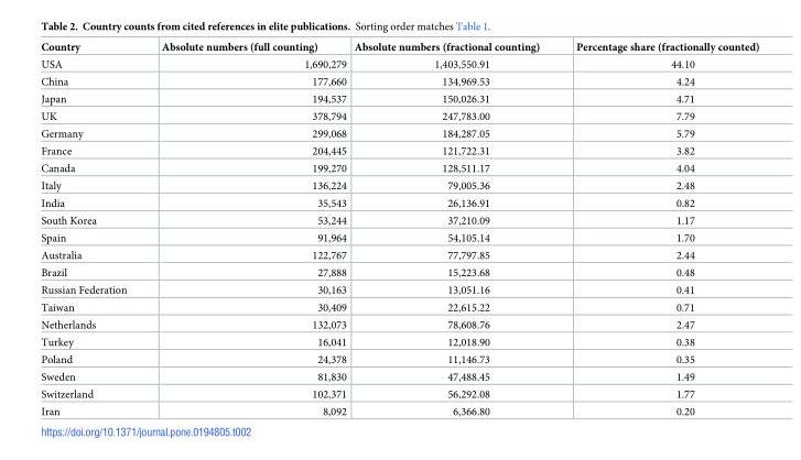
<table><thead><tr><td>Country</td><td>Absolute numbers (full counting)</td><td>Absolute numbers (fractional counting)</td><td>Percentage share (fractionally counted)</td></tr></thead><tbody><tr><td>USA</td><td>1,690,279</td><td>1,403,550.91</td><td>44.10</td></tr><tr><td>China</td><td>177,660</td><td>134,969.53</td><td>4.24</td></tr><tr><td>Japan</td><td>194,537</td><td>150,026.31</td><td>4.71</td></tr><tr><td>UK</td><td>378,794</td><td>247,783.00</td><td>7.79</td></tr><tr><td>Germany</td><td>299,068</td><td>184,287.05</td><td>5.79</td></tr><tr><td>France</td><td>204,445</td><td>121,722.31</td><td>3.82</td></tr><tr><td>Canada</td><td>199,270</td><td>128,511.17</td><td>4.04</td></tr><tr><td>Italy</td><td>136,224</td><td>79,005.36</td><td>2.48</td></tr><tr><td>India</td><td>35,543</td><td>26,136.91</td><td>0.82</td></tr><tr><td>South Korea</td><td>53,244</td><td>37,210.09</td><td>1.17</td></tr><tr><td>Spain</td><td>91,964</td><td>54,105.14</td><td>1.70</td></tr><tr><td>Australia</td><td>122,767</td><td>77,797.85</td><td>2.44</td></tr><tr><td>Brazil</td><td>27,888</td><td>15,223.68</td><td>0.48</td></tr><tr><td>Russian Federation</td><td>30,163</td><td>13,051.16</td><td>0.41</td></tr><tr><td>Taiwan</td><td>30,409</td><td>22,615.22</td><td>0.71</td></tr><tr><td>Netherlands</td><td>132,073</td><td>78,608.76</td><td>2.47</td></tr><tr><td>Turkey</td><td>16,041</td><td>12,018.90</td><td>0.38</td></tr><tr><td>Poland</td><td>24,378</td><td>11,146.73</td><td>0.35</td></tr><tr><td>Sweden</td><td>81,830</td><td>47,488.45</td><td>1.49</td></tr><tr><td>Switzerland</td><td>102,371</td><td>56,292.08</td><td>1.77</td></tr><tr><td>Iran</td><td>8,092</td><td>6,366.80</td><td>0.20</td></tr></tbody></table>